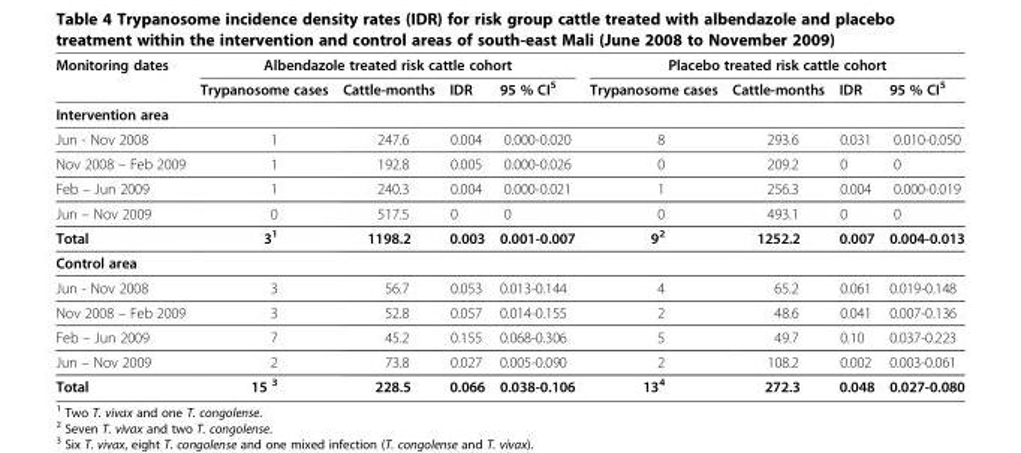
<table><thead><tr><td rowspan="2">Monitoring dates</td><td colspan="4">Albendazole treated risk cattle cohort</td><td colspan="4">Placebo treated risk cattle cohort</td></tr><tr><td>Trypanosome cases</td><td>Cattle-months</td><td>IDR</td><td>95 % CI<sup>5</sup></td><td>Trypanosome cases</td><td>Cattle-months</td><td>IDR</td><td>95 % CI<sup>5</sup></td></tr></thead><tbody><tr><td colspan="9">Intervention area</td></tr><tr><td>Jun - Nov 2008</td><td>1</td><td>247.6</td><td>0.004</td><td>0.000-0.020</td><td>8</td><td>293.6</td><td>0.031</td><td>0.010-0.050</td></tr><tr><td>Nov 2008 – Feb 2009</td><td>1</td><td>192.8</td><td>0.005</td><td>0.000-0.026</td><td>0</td><td>209.2</td><td>0</td><td>0</td></tr><tr><td>Feb – Jun 2009</td><td>1</td><td>240.3</td><td>0.004</td><td>0.000-0.021</td><td>1</td><td>256.3</td><td>0.004</td><td>0.000-0.019</td></tr><tr><td>Jun – Nov 2009</td><td>0</td><td>517.5</td><td>0</td><td>0</td><td>0</td><td>493.1</td><td>0</td><td>0</td></tr><tr><td>Total</td><td>3<sup>1</sup></td><td>1198.2</td><td>0.003</td><td>0.001-0.007</td><td>9<sup>2</sup></td><td>1252.2</td><td>0.007</td><td>0.004-0.013</td></tr><tr><td colspan="9">Control area</td></tr><tr><td>Jun - Nov 2008</td><td>3</td><td>56.7</td><td>0.053</td><td>0.013-0.144</td><td>4</td><td>65.2</td><td>0.061</td><td>0.019-0.148</td></tr><tr><td>Nov 2008 – Feb 2009</td><td>3</td><td>52.8</td><td>0.057</td><td>0.014-0.155</td><td>2</td><td>48.6</td><td>0.041</td><td>0.007-0.136</td></tr><tr><td>Feb – Jun 2009</td><td>7</td><td>45.2</td><td>0.155</td><td>0.068-0.306</td><td>5</td><td>49.7</td><td>0.10</td><td>0.037-0.223</td></tr><tr><td>Jun – Nov 2009</td><td>2</td><td>73.8</td><td>0.027</td><td>0.005-0.090</td><td>2</td><td>108.2</td><td>0.002</td><td>0.003-0.061</td></tr><tr><td>Total</td><td>15 <sup>3</sup></td><td>228.5</td><td>0.066</td><td>0.038-0.106</td><td>13<sup>4</sup></td><td>272.3</td><td>0.048</td><td>0.027-0.080</td></tr></tbody></table>